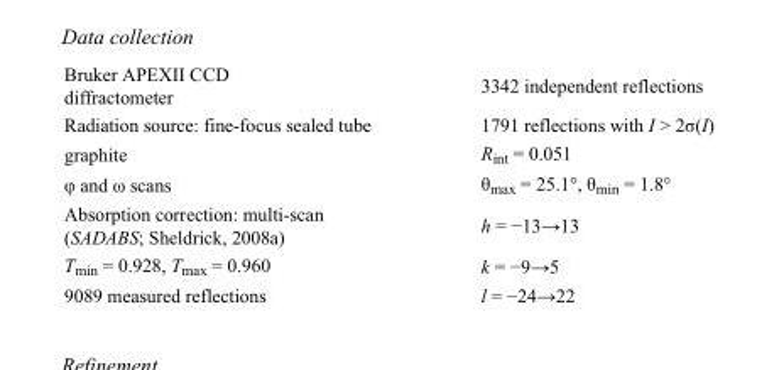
<table><tbody><tr><td>Bruker APEXII CCD diffractometer</td><td>3342 independent reflections</td></tr><tr><td>Radiation source: fine-focus sealed tube</td><td>1791 reflections with I &gt; 2σ(I)</td></tr><tr><td>graphite</td><td>R<sub>int</sub> = 0.051</td></tr><tr><td>φ and ω scans</td><td>θ<sub>max</sub> = 25.1°, θ<sub>min</sub> = 1.8°</td></tr><tr><td>Absorption correction: multi-scan (SADABS; Sheldrick, 2008a)</td><td>h = −13→13</td></tr><tr><td>T<sub>min</sub> = 0.928, T<sub>max</sub> = 0.960</td><td>k = −9→5</td></tr><tr><td>9089 measured reflections</td><td>l = −24→22</td></tr></tbody></table>